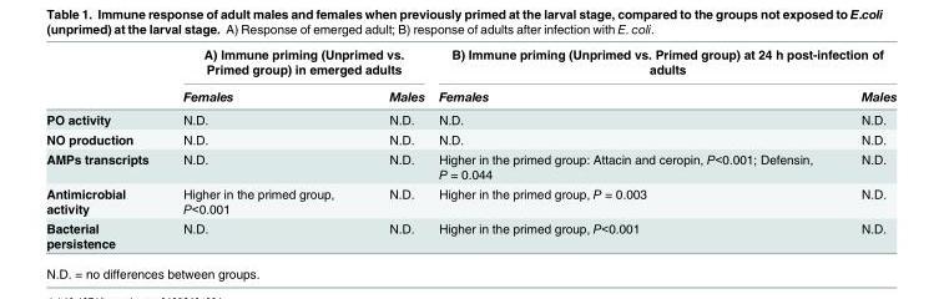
<table><thead><tr><td rowspan="2"></td><td colspan="2">A) Immune priming (Unprimed vs. Primed group) in emerged adults</td><td colspan="2">B) Immune priming (Unprimed vs. Primed group) at 24 h post-infection of adults</td></tr><tr><td>Females</td><td>Males</td><td>Females</td><td>Males</td></tr></thead><tbody><tr><td>PO activity</td><td>N.D.</td><td>N.D.</td><td>N.D.</td><td>N.D.</td></tr><tr><td>NO production</td><td>N.D.</td><td>N.D.</td><td>N.D.</td><td>N.D.</td></tr><tr><td>AMPs transcripts</td><td>N.D.</td><td>N.D.</td><td>Higher in the primed group: Attacin and ceropin, P&lt;0.001; Defensin, P = 0.044</td><td>N.D.</td></tr><tr><td>Antimicrobial activity</td><td>Higher in the primed group, P&lt;0.001</td><td>N.D.</td><td>Higher in the primed group, P = 0.003</td><td>N.D.</td></tr><tr><td>Bacterial persistence</td><td>N.D.</td><td>N.D.</td><td>Higher in the primed group, P&lt;0.001</td><td>N.D.</td></tr></tbody></table>